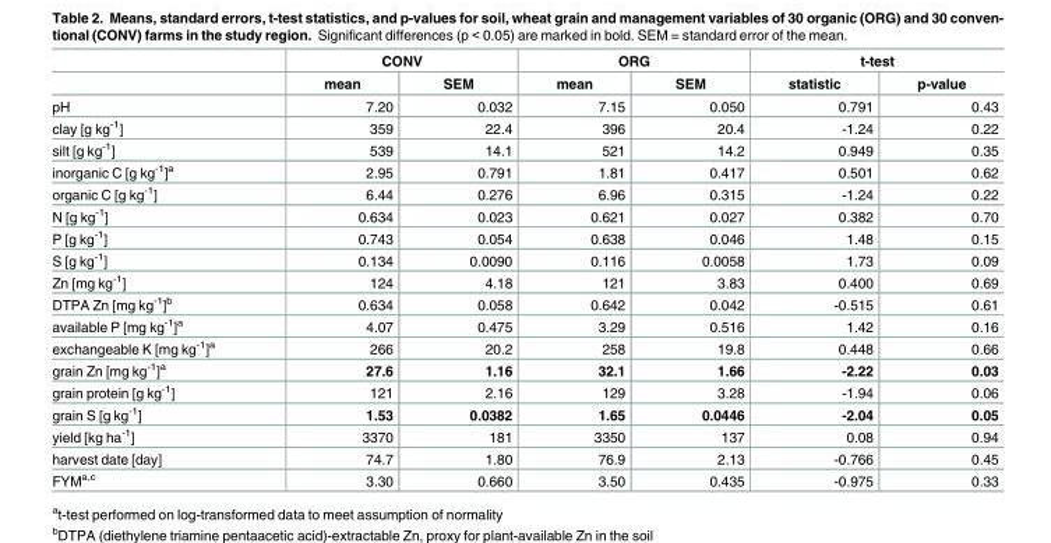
<table><thead><tr><td rowspan="2"></td><td colspan="2">CONV</td><td colspan="2">ORG</td><td colspan="2">t-test</td></tr><tr><td>mean</td><td>SEM</td><td>mean</td><td>SEM</td><td>statistic</td><td>p-value</td></tr></thead><tbody><tr><td>pH</td><td>7.20</td><td>0.032</td><td>7.15</td><td>0.050</td><td>0.791</td><td>0.43</td></tr><tr><td>clay [g kg<sup>-1</sup>]</td><td>359</td><td>22.4</td><td>396</td><td>20.4</td><td>-1.24</td><td>0.22</td></tr><tr><td>silt [g kg<sup>-1</sup>]</td><td>539</td><td>14.1</td><td>521</td><td>14.2</td><td>0.949</td><td>0.35</td></tr><tr><td>inorganic C [g kg<sup>-1</sup>]<sup>a</sup></td><td>2.95</td><td>0.791</td><td>1.81</td><td>0.417</td><td>0.501</td><td>0.62</td></tr><tr><td>organic C [g kg<sup>-1</sup>]</td><td>6.44</td><td>0.276</td><td>6.96</td><td>0.315</td><td>-1.24</td><td>0.22</td></tr><tr><td>N [g kg<sup>-1</sup>]</td><td>0.634</td><td>0.023</td><td>0.621</td><td>0.027</td><td>0.382</td><td>0.70</td></tr><tr><td>P [g kg<sup>-1</sup>]</td><td>0.743</td><td>0.054</td><td>0.638</td><td>0.046</td><td>1.48</td><td>0.15</td></tr><tr><td>S [g kg<sup>-1</sup>]</td><td>0.134</td><td>0.0090</td><td>0.116</td><td>0.0058</td><td>1.73</td><td>0.09</td></tr><tr><td>Zn [mg kg<sup>-1</sup>]</td><td>124</td><td>4.18</td><td>121</td><td>3.83</td><td>0.400</td><td>0.69</td></tr><tr><td>DTPA Zn [mg kg<sup>-1</sup>]<sup>b</sup></td><td>0.634</td><td>0.058</td><td>0.642</td><td>0.042</td><td>-0.515</td><td>0.61</td></tr><tr><td>available P [mg kg<sup>-1</sup>]<sup>a</sup></td><td>4.07</td><td>0.475</td><td>3.29</td><td>0.516</td><td>1.42</td><td>0.16</td></tr><tr><td>exchangeable K [mg kg<sup>-1</sup>]<sup>a</sup></td><td>266</td><td>20.2</td><td>258</td><td>19.8</td><td>0.448</td><td>0.66</td></tr><tr><td>grain Zn [mg kg<sup>-1</sup>]<sup>a</sup></td><td>27.6</td><td>1.16</td><td>32.1</td><td>1.66</td><td>-2.22</td><td>0.03</td></tr><tr><td>grain protein [g kg<sup>-1</sup>]</td><td>121</td><td>2.16</td><td>129</td><td>3.28</td><td>-1.94</td><td>0.06</td></tr><tr><td>grain S [g kg<sup>-1</sup>]</td><td>1.53</td><td>0.0382</td><td>1.65</td><td>0.0446</td><td>-2.04</td><td>0.05</td></tr><tr><td>yield [kg ha<sup>-1</sup>]</td><td>3370</td><td>181</td><td>3350</td><td>137</td><td>0.08</td><td>0.94</td></tr><tr><td>harvest date [day]</td><td>74.7</td><td>1.80</td><td>76.9</td><td>2.13</td><td>-0.766</td><td>0.45</td></tr><tr><td>FYM<sup>a,c</sup></td><td>3.30</td><td>0.660</td><td>3.50</td><td>0.435</td><td>-0.975</td><td>0.33</td></tr></tbody></table>